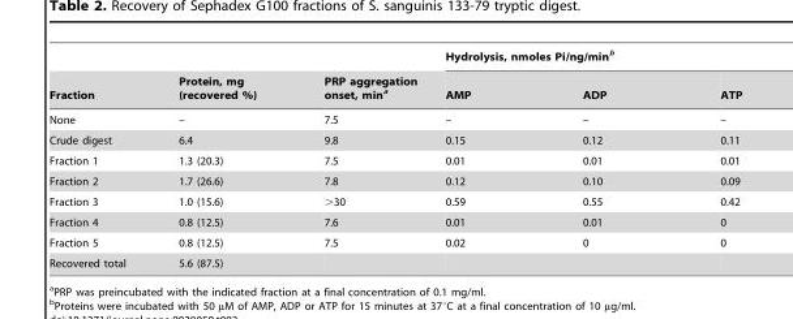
<table><thead><tr><td rowspan="2">Fraction</td><td rowspan="2">Protein, mg (recovered %)</td><td rowspan="2">PRP aggregation onset, min<sup>a</sup></td><td colspan="3">Hydrolysis, nmoles Pi/ng/min<sup>b</sup></td></tr><tr><td>AMP</td><td>ADP</td><td>ATP</td></tr></thead><tbody><tr><td>None</td><td>–</td><td>7.5</td><td>–</td><td>–</td><td>–</td></tr><tr><td>Crude digest</td><td>6.4</td><td>9.8</td><td>0.15</td><td>0.12</td><td>0.11</td></tr><tr><td>Fraction 1</td><td>1.3 (20.3)</td><td>7.5</td><td>0.01</td><td>0.01</td><td>0.01</td></tr><tr><td>Fraction 2</td><td>1.7 (26.6)</td><td>7.8</td><td>0.12</td><td>0.10</td><td>0.09</td></tr><tr><td>Fraction 3</td><td>1.0 (15.6)</td><td>&gt;30</td><td>0.59</td><td>0.55</td><td>0.42</td></tr><tr><td>Fraction 4</td><td>0.8 (12.5)</td><td>7.6</td><td>0.01</td><td>0.01</td><td>0</td></tr><tr><td>Fraction 5</td><td>0.8 (12.5)</td><td>7.5</td><td>0.02</td><td>0</td><td>0</td></tr><tr><td>Recovered total</td><td>5.6 (87.5)</td><td></td><td></td><td></td><td></td></tr></tbody></table>